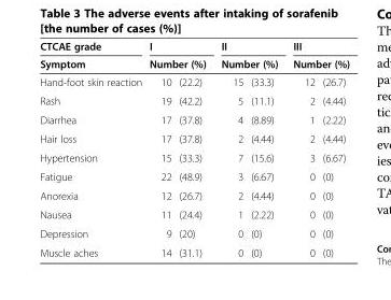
<table><thead><tr><td rowspan="3">CTCAE grade Symptom Hand-foot skin reaction</td><td rowspan="2" colspan="2">I Number (%)</td><td rowspan="2" colspan="2">II Number (%)</td><td rowspan="2" colspan="2">III Number (%)</td></tr><tr></tr><tr><td>10</td><td>(22.2)</td><td>15</td><td>(33.3)</td><td>12</td><td>(26.7)</td></tr></thead><tbody><tr><td>Rash</td><td>19</td><td>(42.2)</td><td>5</td><td>(11.1)</td><td>2</td><td>(4.44)</td></tr><tr><td>Diarrhea</td><td>17</td><td>(37.8)</td><td>4</td><td>(8.89)</td><td>1</td><td>(2.22)</td></tr><tr><td>Hair loss</td><td>17</td><td>(37.8)</td><td>2</td><td>(4.44)</td><td>2</td><td>(4.44)</td></tr><tr><td>Hypertension</td><td>15</td><td>(33.3)</td><td>7</td><td>(15.6)</td><td>3</td><td>(6.67)</td></tr><tr><td>Fatigue</td><td>22</td><td>(48.9)</td><td>3</td><td>(6.67)</td><td>0</td><td>(0)</td></tr><tr><td>Anorexia</td><td>12</td><td>(26.7)</td><td>2</td><td>(4.44)</td><td>0</td><td>(0)</td></tr><tr><td>Nausea</td><td>11</td><td>(24.4)</td><td>1</td><td>(2.22)</td><td>0</td><td>(0)</td></tr><tr><td>Depression</td><td>9</td><td>(20)</td><td>0</td><td>(0)</td><td>0</td><td>(0)</td></tr><tr><td>Muscle aches</td><td>14</td><td>(31.1)</td><td>0</td><td>(0)</td><td>0</td><td>(0)</td></tr></tbody></table>